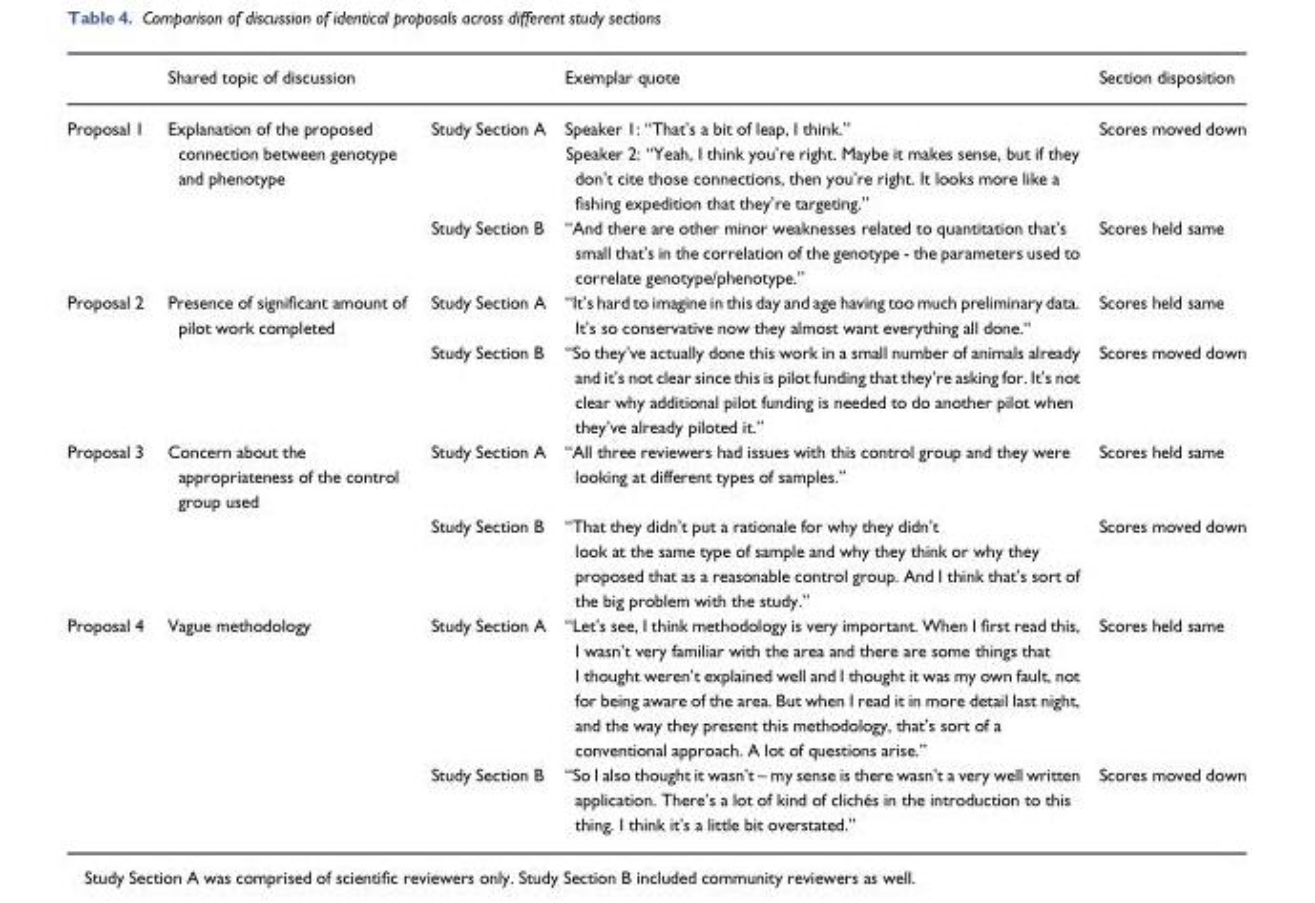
<table><thead><tr><td></td><td>Shared topic of discussion</td><td></td><td>Exemplar quote</td><td>Section disposition</td></tr></thead><tbody><tr><td rowspan="2">Proposal 1</td><td>Explanation of the proposed connection between genotype and phenotype</td><td>Study Section A</td><td>Speaker 1: “That’s a bit of leap, I think.” Speaker 2: “Yeah, I think you’re right. Maybe it makes sense, but if they don’t cite those connections, then you’re right. It looks more like a fishing expedition that they’re targeting.”</td><td>Scores moved down</td></tr><tr><td></td><td>Study Section B</td><td>“And there are other minor weaknesses related to quantitation that’s small that’s in the correlation of the genotype - the parameters used to correlate genotype/phenotype.”</td><td>Scores held same</td></tr><tr><td rowspan="2">Proposal 2</td><td>Presence of significant amount of pilot work completed</td><td>Study Section A</td><td>“It’s hard to imagine in this day and age having too much preliminary data. It’s so conservative now they almost want everything all done.“</td><td>Scores held same</td></tr><tr><td></td><td>Study Section B</td><td>“So they’ve actually done this work in a small number of animals already and it’s not clear since this is pilot funding that they’re asking for. It’s not clear why additional pilot funding is needed to do another pilot when they’ve already piloted it.”</td><td>Scores moved down</td></tr><tr><td rowspan="2">Proposal 3</td><td>Concern about the appropriateness of the control group used</td><td>Study Section A</td><td>“All three reviewers had issues with this control group and they were looking at different types of samples.”</td><td>Scores held same</td></tr><tr><td></td><td>Study Section B</td><td>“That they didn’t put a rationale for why they didn’t look at the same type of sample and why they think or why they proposed that as a reasonable control group. And I think that’s sort of the big problem with the study.”</td><td>Scores moved down</td></tr><tr><td rowspan="2">Proposal 4</td><td>Vague methodology</td><td>Study Section A</td><td>“Let’s see, I think methodology is very important. When I first read this, I wasn’t very familiar with the area and there are some things that I thought weren’t explained well and I thought it was my own fault, not for being aware of the area. But when I read it in more detail last night, and the way they present this methodology, that’s sort of a conventional approach. A lot of questions arise.”</td><td>Scores held same</td></tr><tr><td></td><td>Study Section B</td><td>“So I also thought it wasn’t – my sense is there wasn’t a very well written application. There’s a lot of kind of clichés in the introduction to this thing. I think it’s a little bit overstated.”</td><td>Scores moved down</td></tr></tbody></table>